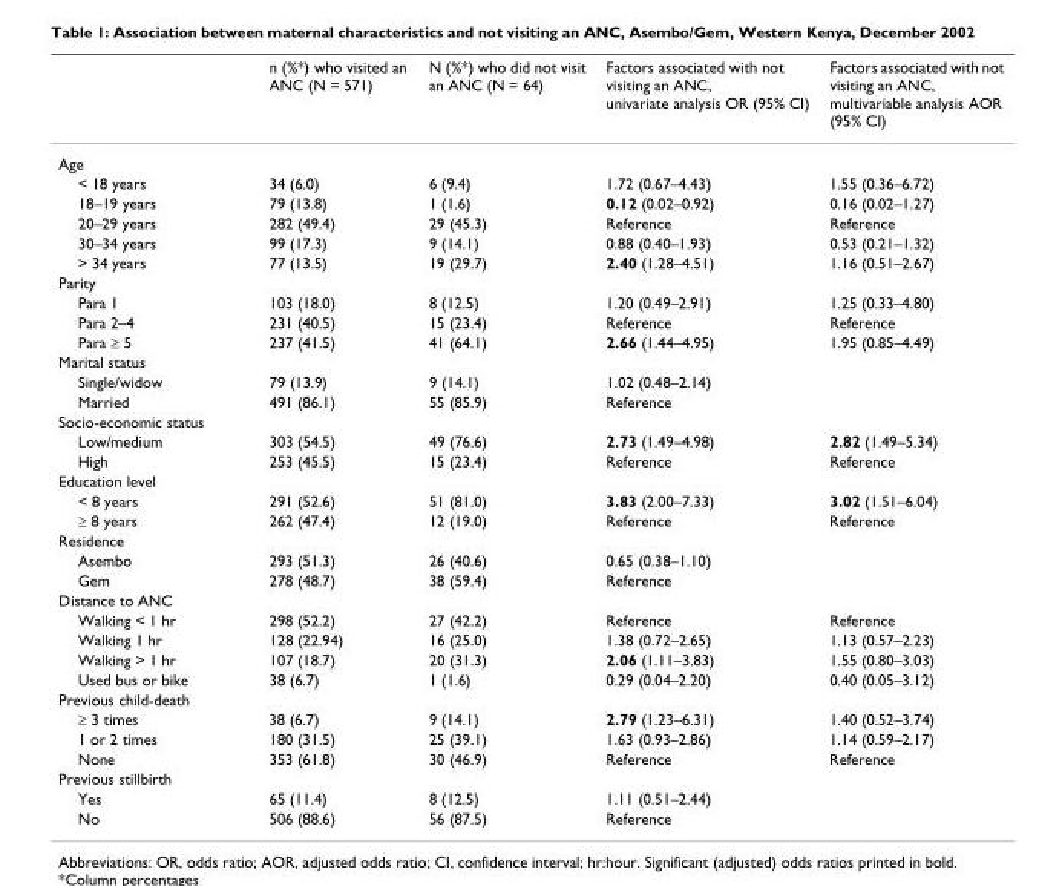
<table><thead><tr><td></td><td>n (%*) who visited an ANC (N = 571)</td><td>N (%*) who did not visit an ANC (N = 64)</td><td>Factors associated with not visiting an ANC, univariate analysis OR (95% CI)</td><td>Factors associated with not visiting an ANC, multivariable analysis AOR (95% CI)</td></tr></thead><tbody><tr><td colspan="5">Age</td></tr><tr><td>&lt; 18 years</td><td>34 (6.0)</td><td>6 (9.4)</td><td>1.72 (0.67–4.43)</td><td>1.55 (0.36–6.72)</td></tr><tr><td>18–19 years</td><td>79 (13.8)</td><td>1 (1.6)</td><td>0.12 (0.02–0.92)</td><td>0.16 (0.02–1.27)</td></tr><tr><td>20–29 years</td><td>282 (49.4)</td><td>29 (45.3)</td><td>Reference</td><td>Reference</td></tr><tr><td>30–34 years</td><td>99 (17.3)</td><td>9 (14.1)</td><td>0.88 (0.40–1.93)</td><td>0.53 (0.21–1.32)</td></tr><tr><td>&gt; 34 years</td><td>77 (13.5)</td><td>19 (29.7)</td><td>2.40 (1.28–4.51)</td><td>1.16 (0.51–2.67)</td></tr><tr><td colspan="5">Parity</td></tr><tr><td>Para 1</td><td>103 (18.0)</td><td>8 (12.5)</td><td>1.20 (0.49–2.91)</td><td>1.25 (0.33–4.80)</td></tr><tr><td>Para 2–4</td><td>231 (40.5)</td><td>15 (23.4)</td><td>Reference</td><td>Reference</td></tr><tr><td>Para ≥ 5</td><td>237 (41.5)</td><td>41 (64.1)</td><td>2.66 (1.44–4.95)</td><td>1.95 (0.85–4.49)</td></tr><tr><td colspan="5">Marital status</td></tr><tr><td>Single/widow</td><td>79 (13.9)</td><td>9 (14.1)</td><td>1.02 (0.48–2.14)</td><td></td></tr><tr><td>Married</td><td>491 (86.1)</td><td>55 (85.9)</td><td>Reference</td><td></td></tr><tr><td colspan="5">Socio-economic status</td></tr><tr><td>Low/medium</td><td>303 (54.5)</td><td>49 (76.6)</td><td>2.73 (1.49–4.98)</td><td>2.82 (1.49–5.34)</td></tr><tr><td>High</td><td>253 (45.5)</td><td>15 (23.4)</td><td>Reference</td><td>Reference</td></tr><tr><td colspan="5">Education level</td></tr><tr><td>&lt; 8 years</td><td>291 (52.6)</td><td>51 (81.0)</td><td>3.83 (2.00–7.33)</td><td>3.02 (1.51–6.04)</td></tr><tr><td>≥ 8 years</td><td>262 (47.4)</td><td>12 (19.0)</td><td>Reference</td><td>Reference</td></tr><tr><td colspan="5">Residence</td></tr><tr><td>Asembo</td><td>293 (51.3)</td><td>26 (40.6)</td><td>0.65 (0.38–1.10)</td><td></td></tr><tr><td>Gem</td><td>278 (48.7)</td><td>38 (59.4)</td><td>Reference</td><td></td></tr><tr><td colspan="5">Distance to ANC</td></tr><tr><td>Walking &lt; 1 hr</td><td>298 (52.2)</td><td>27 (42.2)</td><td>Reference</td><td>Reference</td></tr><tr><td>Walking 1 hr</td><td>128 (22.94)</td><td>16 (25.0)</td><td>1.38 (0.72–2.65)</td><td>1.13 (0.57–2.23)</td></tr><tr><td>Walking &gt; 1 hr</td><td>107 (18.7)</td><td>20 (31.3)</td><td>2.06 (1.11–3.83)</td><td>1.55 (0.80–3.03)</td></tr><tr><td>Used bus or bike</td><td>38 (6.7)</td><td>1 (1.6)</td><td>0.29 (0.04–2.20)</td><td>0.40 (0.05–3.12)</td></tr><tr><td colspan="5">Previous child-death</td></tr><tr><td>≥ 3 times</td><td>38 (6.7)</td><td>9 (14.1)</td><td>2.79 (1.23–6.31)</td><td>1.40 (0.52–3.74)</td></tr><tr><td>1 or 2 times</td><td>180 (31.5)</td><td>25 (39.1)</td><td>1.63 (0.93–2.86)</td><td>1.14 (0.59–2.17)</td></tr><tr><td>None</td><td>353 (61.8)</td><td>30 (46.9)</td><td>Reference</td><td>Reference</td></tr><tr><td colspan="5">Previous stillbirth</td></tr><tr><td>Yes</td><td>65 (11.4)</td><td>8 (12.5)</td><td>1.11 (0.51–2.44)</td><td></td></tr><tr><td>No</td><td>506 (88.6)</td><td>56 (87.5)</td><td>Reference</td><td></td></tr></tbody></table>